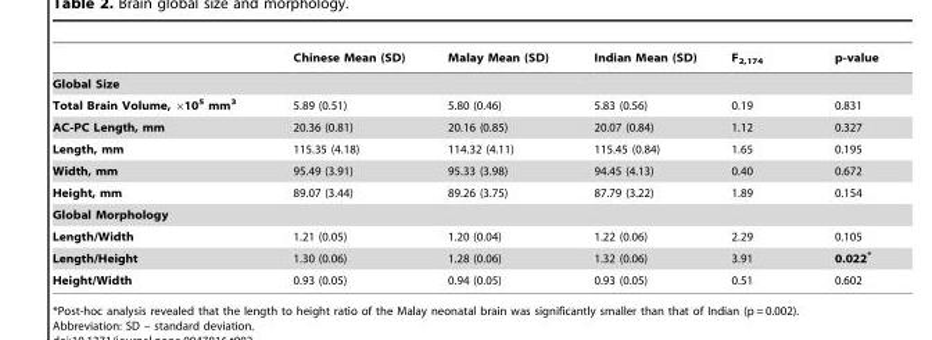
<table><thead><tr><td></td><td>Chinese Mean (SD)</td><td>Malay Mean (SD)</td><td>Indian Mean (SD)</td><td>F<sub>2,174</sub></td><td>p-value</td></tr></thead><tbody><tr><td colspan="6">Global Size</td></tr><tr><td>Total Brain Volume, ×10<sup>5</sup> mm<sup>3</sup></td><td>5.89 (0.51)</td><td>5.80 (0.46)</td><td>5.83 (0.56)</td><td>0.19</td><td>0.831</td></tr><tr><td>AC-PC Length, mm</td><td>20.36 (0.81)</td><td>20.16 (0.85)</td><td>20.07 (0.84)</td><td>1.12</td><td>0.327</td></tr><tr><td>Length, mm</td><td>115.35 (4.18)</td><td>114.32 (4.11)</td><td>115.45 (0.84)</td><td>1.65</td><td>0.195</td></tr><tr><td>Width, mm</td><td>95.49 (3.91)</td><td>95.33 (3.98)</td><td>94.45 (4.13)</td><td>0.40</td><td>0.672</td></tr><tr><td>Height, mm</td><td>89.07 (3.44)</td><td>89.26 (3.75)</td><td>87.79 (3.22)</td><td>1.89</td><td>0.154</td></tr><tr><td colspan="6">Global Morphology</td></tr><tr><td>Length/Width</td><td>1.21 (0.05)</td><td>1.20 (0.04)</td><td>1.22 (0.06)</td><td>2.29</td><td>0.105</td></tr><tr><td>Length/Height</td><td>1.30 (0.06)</td><td>1.28 (0.06)</td><td>1.32 (0.06)</td><td>3.91</td><td>0.022*</td></tr><tr><td>Height/Width</td><td>0.93 (0.05)</td><td>0.94 (0.05)</td><td>0.93 (0.05)</td><td>0.51</td><td>0.602</td></tr></tbody></table>